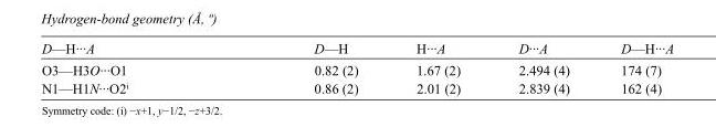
<table><tbody><tr><td>D—H···A</td><td>D—H</td><td>H···A</td><td>D···A</td><td>D—H···A</td></tr><tr><td>O3—H3O···O1</td><td>0.82 (2)</td><td>1.67 (2)</td><td>2.494 (4)</td><td>174 (7)</td></tr><tr><td>N1—H1N···O2<sup>i</sup></td><td>0.86 (2)</td><td>2.01 (2)</td><td>2.839 (4)</td><td>162 (4)</td></tr></tbody></table>